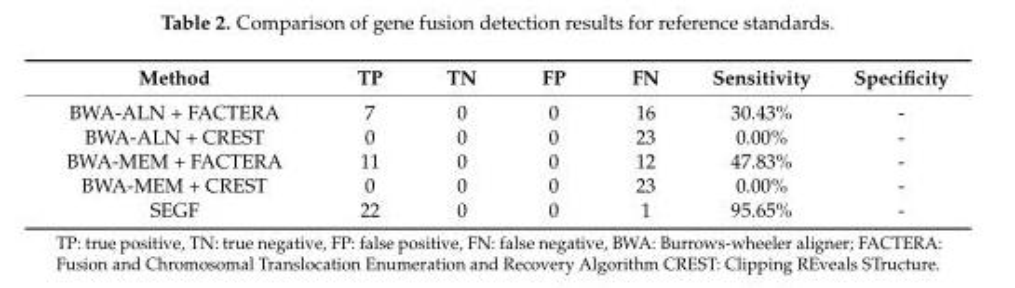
<table><thead><tr><td>Method</td><td>TP</td><td>TN</td><td>FP</td><td>FN</td><td>Sensitivity</td><td>Specificity</td></tr></thead><tbody><tr><td>BWA-ALN + FACTERA</td><td>7</td><td>0</td><td>0</td><td>16</td><td>30.43%</td><td>-</td></tr><tr><td>BWA-ALN + CREST</td><td>0</td><td>0</td><td>0</td><td>23</td><td>0.00%</td><td>-</td></tr><tr><td>BWA-MEM + FACTERA</td><td>11</td><td>0</td><td>0</td><td>12</td><td>47.83%</td><td>-</td></tr><tr><td>BWA-MEM + CREST</td><td>0</td><td>0</td><td>0</td><td>23</td><td>0.00%</td><td>-</td></tr><tr><td>SEGF</td><td>22</td><td>0</td><td>0</td><td>1</td><td>95.65%</td><td>-</td></tr></tbody></table>